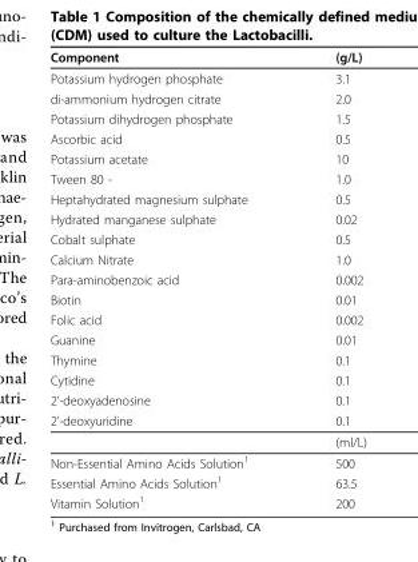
<table><thead><tr><td>Component</td><td>(g/L)</td></tr></thead><tbody><tr><td>Potassium hydrogen phosphate</td><td>3.1</td></tr><tr><td>di-ammonium hydrogen citrate</td><td>2.0</td></tr><tr><td>Potassium dihydrogen phosphate</td><td>1.5</td></tr><tr><td>Ascorbic acid</td><td>0.5</td></tr><tr><td>Potassium acetate</td><td>10</td></tr><tr><td>Tween 80 -</td><td>1.0</td></tr><tr><td>Heptahydrated magnesium sulphate</td><td>0.5</td></tr><tr><td>Hydrated manganese sulphate</td><td>0.02</td></tr><tr><td>Cobalt sulphate</td><td>0.5</td></tr><tr><td>Calcium Nitrate</td><td>1.0</td></tr><tr><td>Para-aminobenzoic acid</td><td>0.002</td></tr><tr><td>Biotin</td><td>0.01</td></tr><tr><td>Folic acid</td><td>0.002</td></tr><tr><td>Guanine</td><td>0.01</td></tr><tr><td>Thymine</td><td>0.1</td></tr><tr><td>Cytidine</td><td>0.1</td></tr><tr><td>2’-deoxyadenosine</td><td>0.1</td></tr><tr><td rowspan="2">2’-deoxyuridine</td><td>0.1</td></tr><tr><td>(ml/L)</td></tr><tr><td>Non-Essential Amino Acids Solution<sup>1</sup></td><td>500</td></tr><tr><td>Essential Amino Acids Solution<sup>1</sup></td><td>63.5</td></tr><tr><td>Vitamin Solution<sup>1</sup></td><td>200</td></tr></tbody></table>